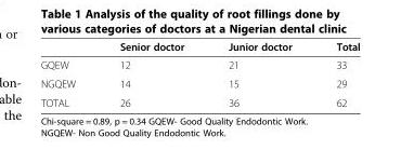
<table><thead><tr><td></td><td>Senior doctor</td><td>Junior doctor</td><td>Total</td></tr></thead><tbody><tr><td>GQEW</td><td>12</td><td>21</td><td>33</td></tr><tr><td>NGQEW</td><td>14</td><td>15</td><td>29</td></tr><tr><td>TOTAL</td><td>26</td><td>36</td><td>62</td></tr></tbody></table>